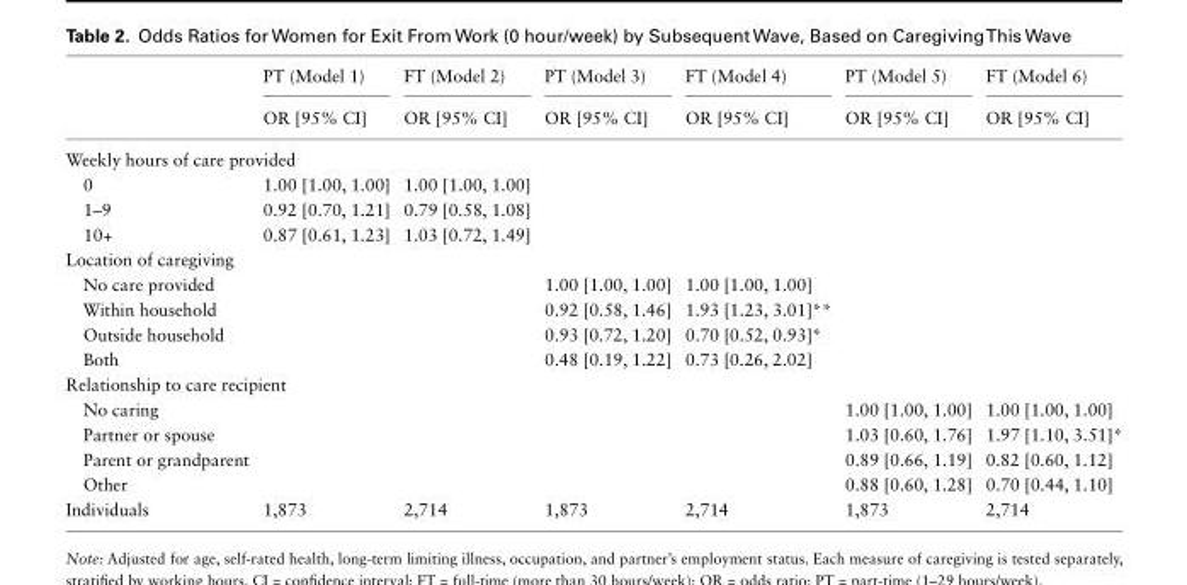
<table><thead><tr><td rowspan="2"></td><td rowspan="2">PT (Model 1) OR [95% CI]</td><td rowspan="2">FT (Model 2) OR [95% CI]</td><td rowspan="2">PT (Model 3) OR [95% CI]</td><td rowspan="2">FT (Model 4) OR [95% CI]</td><td rowspan="2">PT (Model 5) OR [95% CI]</td><td rowspan="2">FT (Model 6) OR [95% CI]</td></tr><tr></tr></thead><tbody><tr><td colspan="7">Weekly hours of care provided</td></tr><tr><td>0</td><td>1.00 [1.00, 1.00]</td><td>1.00 [1.00, 1.00]</td><td></td><td></td><td></td><td></td></tr><tr><td>1–9</td><td>0.92 [0.70, 1.21]</td><td>0.79 [0.58, 1.08]</td><td></td><td></td><td></td><td></td></tr><tr><td>10+</td><td>0.87 [0.61, 1.23]</td><td>1.03 [0.72, 1.49]</td><td></td><td></td><td></td><td></td></tr><tr><td colspan="7">Location of caregiving</td></tr><tr><td>No care provided</td><td></td><td></td><td>1.00 [1.00, 1.00]</td><td>1.00 [1.00, 1.00]</td><td></td><td></td></tr><tr><td>Within household</td><td></td><td></td><td>0.92 [0.58, 1.46]</td><td>1.93 [1.23, 3.01]**</td><td></td><td></td></tr><tr><td>Outside household</td><td></td><td></td><td>0.93 [0.72, 1.20]</td><td>0.70 [0.52, 0.93]*</td><td></td><td></td></tr><tr><td>Both</td><td></td><td></td><td>0.48 [0.19, 1.22]</td><td>0.73 [0.26, 2.02]</td><td></td><td></td></tr><tr><td colspan="7">Relationship to care recipient</td></tr><tr><td>No caring</td><td></td><td></td><td></td><td></td><td>1.00 [1.00, 1.00]</td><td>1.00 [1.00, 1.00]</td></tr><tr><td>Partner or spouse</td><td></td><td></td><td></td><td></td><td>1.03 [0.60, 1.76]</td><td>1.97 [1.10, 3.51]*</td></tr><tr><td>Parent or grandparent</td><td></td><td></td><td></td><td></td><td>0.89 [0.66, 1.19]</td><td>0.82 [0.60, 1.12]</td></tr><tr><td>Other</td><td></td><td></td><td></td><td></td><td>0.88 [0.60, 1.28]</td><td>0.70 [0.44, 1.10]</td></tr><tr><td>Individuals</td><td>1,873</td><td>2,714</td><td>1,873</td><td>2,714</td><td>1,873</td><td>2,714</td></tr></tbody></table>